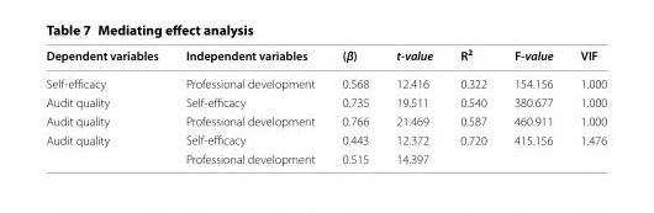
<table><thead><tr><td>Dependent variables</td><td>Independent variables</td><td>(β)</td><td>t‑value</td><td>R<sup>2</sup></td><td>F‑value</td><td>VIF</td></tr></thead><tbody><tr><td>Self‑efficacy</td><td>Professional development</td><td>0.568</td><td>12.416</td><td>0.322</td><td>154.156</td><td>1.000</td></tr><tr><td>Audit quality</td><td>Self‑efficacy</td><td>0.735</td><td>19.511</td><td>0.540</td><td>380.677</td><td>1.000</td></tr><tr><td>Audit quality</td><td>Professional development</td><td>0.766</td><td>21.469</td><td>0.587</td><td>460.911</td><td>1.000</td></tr><tr><td rowspan="2">Audit quality</td><td>Self‑efficacy</td><td>0.443</td><td>12.372</td><td rowspan="2">0.720</td><td rowspan="2">415.156</td><td rowspan="2">1.476</td></tr><tr><td>Professional development</td><td>0.515</td><td>14.397</td></tr></tbody></table>